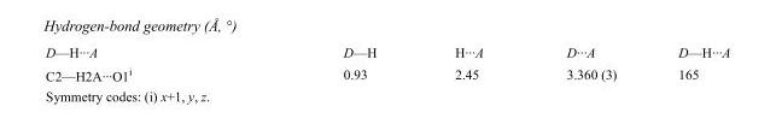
<table><tbody><tr><td>D—H···A</td><td>D—H</td><td>H···A</td><td>D···A</td><td>D—H···A</td></tr><tr><td>C2—H2A···O1<sup>i</sup></td><td>0.93</td><td>2.45</td><td>3.360 (3)</td><td>165</td></tr></tbody></table>